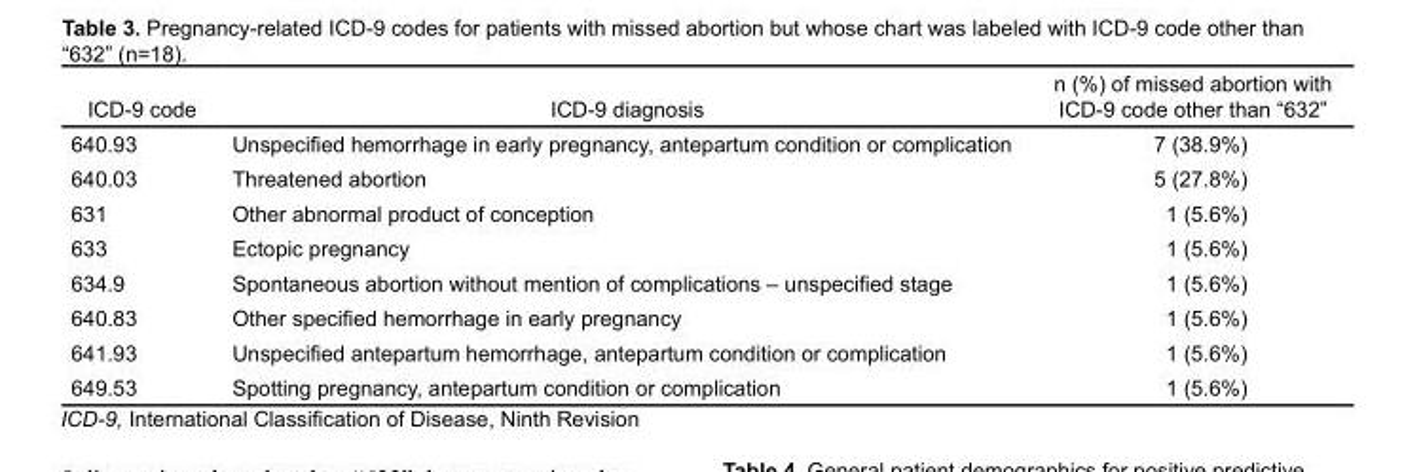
<table><thead><tr><td>ICD-9 code</td><td>ICD-9 diagnosis</td><td>n (%) of missed abortion with ICD-9 code other than “632”</td></tr></thead><tbody><tr><td>640.93</td><td>Unspecified hemorrhage in early pregnancy, antepartum condition or complication</td><td>7 (38.9%)</td></tr><tr><td>640.03</td><td>Threatened abortion</td><td>5 (27.8%)</td></tr><tr><td>631</td><td>Other abnormal product of conception</td><td>1 (5.6%)</td></tr><tr><td>633</td><td>Ectopic pregnancy</td><td>1 (5.6%)</td></tr><tr><td>634.9</td><td>Spontaneous abortion without mention of complications – unspecified stage</td><td>1 (5.6%)</td></tr><tr><td>640.83</td><td>Other specified hemorrhage in early pregnancy</td><td>1 (5.6%)</td></tr><tr><td>641.93</td><td>Unspecified antepartum hemorrhage, antepartum condition or complication</td><td>1 (5.6%)</td></tr><tr><td>649.53</td><td>Spotting pregnancy, antepartum condition or complication</td><td>1 (5.6%)</td></tr></tbody></table>